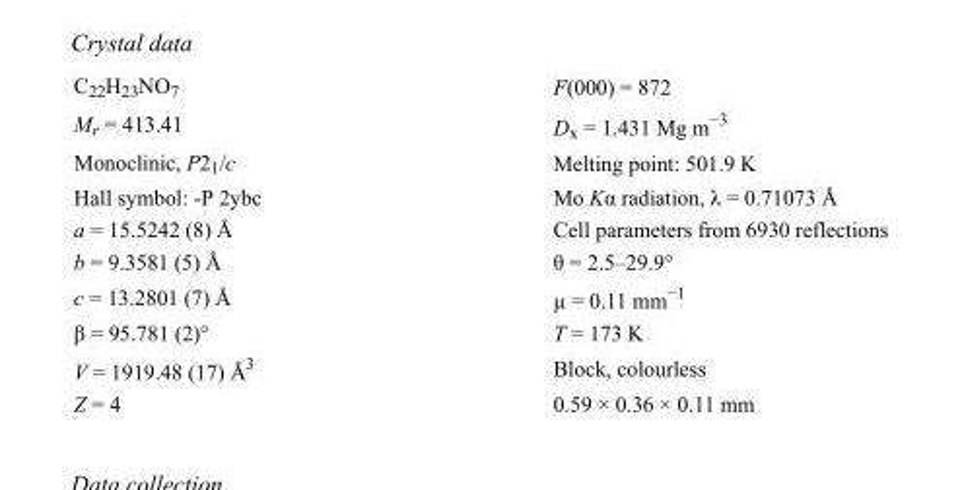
<table><tbody><tr><td>C<sub>22</sub>H<sub>23</sub>NO<sub>7</sub></td><td>F(000) = 872</td></tr><tr><td>M<sub>r</sub> = 413.41</td><td>D<sub>x</sub> = 1.431 Mg m<sup>−3</sup></td></tr><tr><td>Monoclinic, P2<sub>1</sub>/c</td><td>Melting point: 501.9 K</td></tr><tr><td>Hall symbol: -P 2ybc</td><td>Mo Kα radiation, λ = 0.71073 Å</td></tr><tr><td>a = 15.5242 (8) Å</td><td>Cell parameters from 6930 reflections</td></tr><tr><td>b = 9.3581 (5) Å</td><td>θ = 2.5–29.9°</td></tr><tr><td>c = 13.2801 (7) Å</td><td>µ = 0.11 mm<sup>−1</sup></td></tr><tr><td>β = 95.781 (2)°</td><td>T = 173 K</td></tr><tr><td>V = 1919.48 (17) Å<sup>3</sup></td><td>Block, colourless</td></tr><tr><td>Z = 4</td><td>0.59 × 0.36 × 0.11 mm</td></tr></tbody></table>